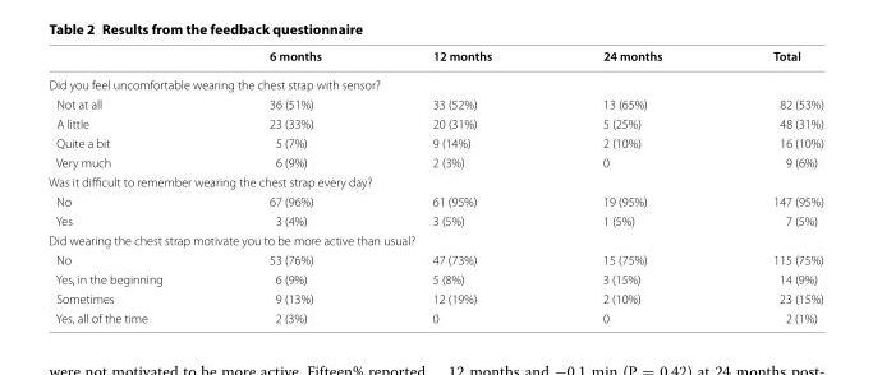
<table><thead><tr><td></td><td>6 months</td><td>12 months</td><td>24 months</td><td>Total</td></tr></thead><tbody><tr><td colspan="5">Did you feel uncomfortable wearing the chest strap with sensor?</td></tr><tr><td>Not at all</td><td>36 (51%)</td><td>33 (52%)</td><td>13 (65%)</td><td>82 (53%)</td></tr><tr><td>A little</td><td>23 (33%)</td><td>20 (31%)</td><td>5 (25%)</td><td>48 (31%)</td></tr><tr><td>Quite a bit</td><td>5 (7%)</td><td>9 (14%)</td><td>2 (10%)</td><td>16 (10%)</td></tr><tr><td>Very much</td><td>6 (9%)</td><td>2 (3%)</td><td>0</td><td>9 (6%)</td></tr><tr><td colspan="5">Was it difficult to remember wearing the chest strap every day?</td></tr><tr><td>No</td><td>67 (96%)</td><td>61 (95%)</td><td>19 (95%)</td><td>147 (95%)</td></tr><tr><td>Yes</td><td>3 (4%)</td><td>3 (5%)</td><td>1 (5%)</td><td>7 (5%)</td></tr><tr><td colspan="5">Did wearing the chest strap motivate you to be more active than usual?</td></tr><tr><td>No</td><td>53 (76%)</td><td>47 (73%)</td><td>15 (75%)</td><td>115 (75%)</td></tr><tr><td>Yes, in the beginning</td><td>6 (9%)</td><td>5 (8%)</td><td>3 (15%)</td><td>14 (9%)</td></tr><tr><td>Sometimes</td><td>9 (13%)</td><td>12 (19%)</td><td>2 (10%)</td><td>23 (15%)</td></tr><tr><td>Yes, all of the time</td><td>2 (3%)</td><td>0</td><td>0</td><td>2 (1%)</td></tr></tbody></table>